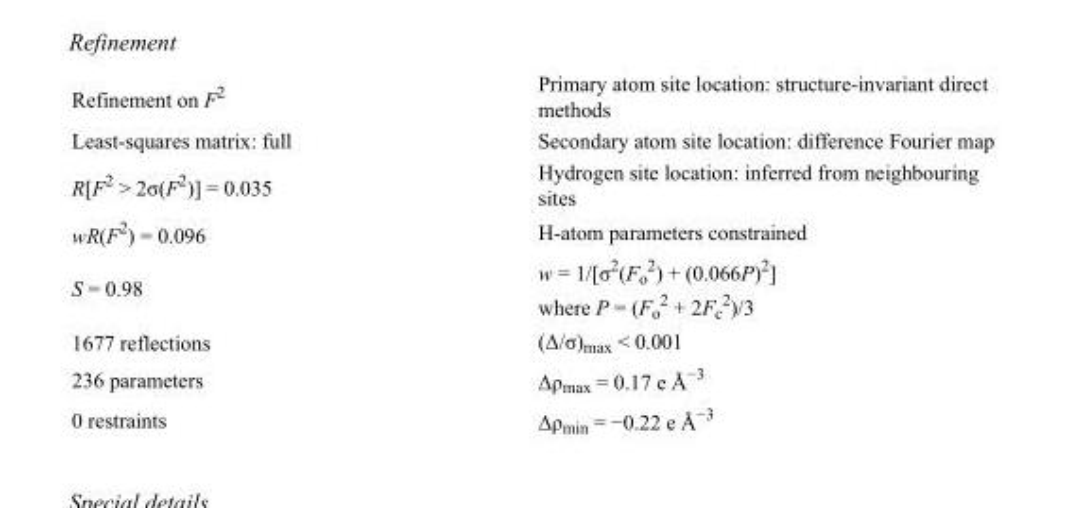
<table><tbody><tr><td>Refinement on F<sup>2</sup></td><td>Primary atom site location: structure-invariant direct methods</td></tr><tr><td>Least-squares matrix: full</td><td>Secondary atom site location: difference Fourier map</td></tr><tr><td>R[F<sup>2</sup> &gt; 2σ(F<sup>2</sup>)] = 0.035</td><td>Hydrogen site location: inferred from neighbouring sites</td></tr><tr><td>wR(F<sup>2</sup>) = 0.096</td><td>H-atom parameters constrained</td></tr><tr><td>S = 0.98</td><td>w = 1/[σ<sup>2</sup>(F<sub>o</sub> <sup>2</sup>) + (0.066P)<sup>2</sup>] where P = (F<sub>o</sub> <sup>2</sup> + 2F<sub>c</sub> <sup>2</sup>)/3</td></tr><tr><td>1677 reflections</td><td>(Δ/σ)<sub>max</sub> &lt; 0.001</td></tr><tr><td>236 parameters</td><td>Δρ<sub>max</sub> = 0.17 e Å<sup>−3</sup></td></tr><tr><td>0 restraints</td><td>Δρ<sub>min</sub> = −0.22 e Å<sup>−3</sup></td></tr></tbody></table>